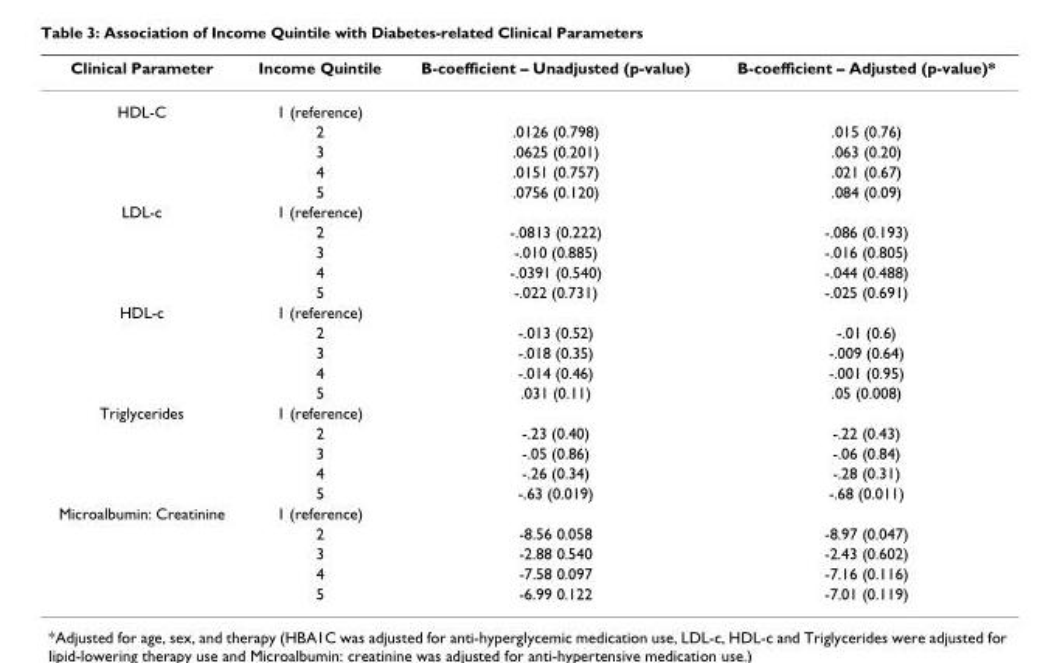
<table><thead><tr><td>Clinical Parameter</td><td>Income Quintile</td><td>B-coefficient – Unadjusted (p-value)</td><td>B-coefficient – Adjusted (p-value)*</td></tr></thead><tbody><tr><td rowspan="5">HDL-C</td><td>1 (reference)</td><td></td><td></td></tr><tr><td>2</td><td>.0126 (0.798)</td><td>.015 (0.76)</td></tr><tr><td>3</td><td>.0625 (0.201)</td><td>.063 (0.20)</td></tr><tr><td>4</td><td>.0151 (0.757)</td><td>.021 (0.67)</td></tr><tr><td>5</td><td>.0756 (0.120)</td><td>.084 (0.09)</td></tr><tr><td rowspan="5">LDL-c</td><td>1 (reference)</td><td></td><td></td></tr><tr><td>2</td><td>-.0813 (0.222)</td><td>-.086 (0.193)</td></tr><tr><td>3</td><td>-.010 (0.885)</td><td>-.016 (0.805)</td></tr><tr><td>4</td><td>-.0391 (0.540)</td><td>-.044 (0.488)</td></tr><tr><td>5</td><td>-.022 (0.731)</td><td>-.025 (0.691)</td></tr><tr><td rowspan="5">HDL-c</td><td>1 (reference)</td><td></td><td></td></tr><tr><td>2</td><td>-.013 (0.52)</td><td>-.01 (0.6)</td></tr><tr><td>3</td><td>-.018 (0.35)</td><td>-.009 (0.64)</td></tr><tr><td>4</td><td>-.014 (0.46)</td><td>-.001 (0.95)</td></tr><tr><td>5</td><td>.031 (0.11)</td><td>.05 (0.008)</td></tr><tr><td rowspan="5">Triglycerides</td><td>1 (reference)</td><td></td><td></td></tr><tr><td>2</td><td>-.23 (0.40)</td><td>-.22 (0.43)</td></tr><tr><td>3</td><td>-.05 (0.86)</td><td>-.06 (0.84)</td></tr><tr><td>4</td><td>-.26 (0.34)</td><td>-.28 (0.31)</td></tr><tr><td>5</td><td>-.63 (0.019)</td><td>-.68 (0.011)</td></tr><tr><td rowspan="5">Microalbumin: Creatinine</td><td>1 (reference)</td><td></td><td></td></tr><tr><td>2</td><td>-8.56 0.058</td><td>-8.97 (0.047)</td></tr><tr><td>3</td><td>-2.88 0.540</td><td>-2.43 (0.602)</td></tr><tr><td>4</td><td>-7.58 0.097</td><td>-7.16 (0.116)</td></tr><tr><td>5</td><td>-6.99 0.122</td><td>-7.01 (0.119)</td></tr></tbody></table>